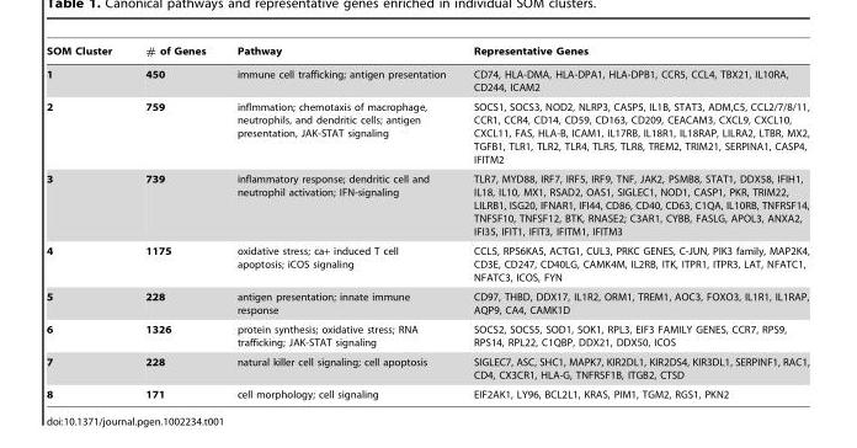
<table><thead><tr><td>SOM Cluster</td><td># of Genes</td><td>Pathway</td><td>Representative Genes</td></tr></thead><tbody><tr><td>1</td><td>450</td><td>immune cell trafficking; antigen presentation</td><td>CD74, HLA-DMA, HLA-DPA1, HLA-DPB1, CCR5, CCL4, TBX21, IL10RA, CD244, ICAM2</td></tr><tr><td>2</td><td>759</td><td>inflmmation; chemotaxis of macrophage, neutrophils, and dendritic cells; antigen presentation, JAK-STAT signaling</td><td>SOCS1, SOCS3, NOD2, NLRP3, CASP5, IL1B, STAT3, ADM,C5, CCL2/7/8/11, CCR1, CCR4, CD14, CD59, CD163, CD209, CEACAM3, CXCL9, CXCL10, CXCL11, FAS, HLA-B, ICAM1, IL17RB, IL18R1, IL18RAP, LILRA2, LTBR, MX2, TGFB1, TLR1, TLR2, TLR4, TLR5, TLR8, TREM2, TRIM21, SERPINA1, CASP4, IFITM2</td></tr><tr><td>3</td><td>739</td><td>inflammatory response; dendritic cell and neutrophil activation; IFN-signaling</td><td>TLR7, MYD88, IRF7, IRF5, IRF9, TNF, JAK2, PSMB8, STAT1, DDX58, IFIH1, IL18, IL10, MX1, RSAD2, OAS1, SIGLEC1, NOD1, CASP1, PKR, TRIM22, LILRB1, ISG20, IFNAR1, IFI44, CD86, CD40, CD63, C1QA, IL10RB, TNFRSF14, TNFSF10, TNFSF12, BTK, RNASE2; C3AR1, CYBB, FASLG, APOL3, ANXA2, IFI35, IFIT1, IFIT3, IFITM1, IFITM3</td></tr><tr><td>4</td><td>1175</td><td>oxidative stress; ca+ induced T cell apoptosis; iCOS signaling</td><td>CCL5, RPS6KA5, ACTG1, CUL3, PRKC GENES, C-JUN, PIK3 family, MAP2K4, CD3E, CD247, CD40LG, CAMK4M, IL2RB, ITK, ITPR1, ITPR3, LAT, NFATC1, NFATC3, ICOS, FYN</td></tr><tr><td>5</td><td>228</td><td>antigen presentation; innate immune response</td><td>CD97, THBD, DDX17, IL1R2, ORM1, TREM1, AOC3, FOXO3, IL1R1, IL1RAP, AQP9, CA4, CAMK1D</td></tr><tr><td>6</td><td>1326</td><td>protein synthesis; oxidative stress; RNA trafficking; JAK-STAT signaling</td><td>SOCS2, SOCS5, SOD1, SOK1, RPL3, EIF3 FAMILY GENES, CCR7, RPS9, RPS14, RPL22, C1QBP, DDX21, DDX50, ICOS</td></tr><tr><td>7</td><td>228</td><td>natural killer cell signaling; cell apoptosis</td><td>SIGLEC7, ASC, SHC1, MAPK7, KIR2DL1, KIR2DS4, KIR3DL1, SERPINF1, RAC1, CD4, CX3CR1, HLA-G, TNFRSF1B, ITGB2, CTSD</td></tr><tr><td>8</td><td>171</td><td>cell morphology; cell signaling</td><td>EIF2AK1, LY96, BCL2L1, KRAS, PIM1, TGM2, RGS1, PKN2</td></tr></tbody></table>